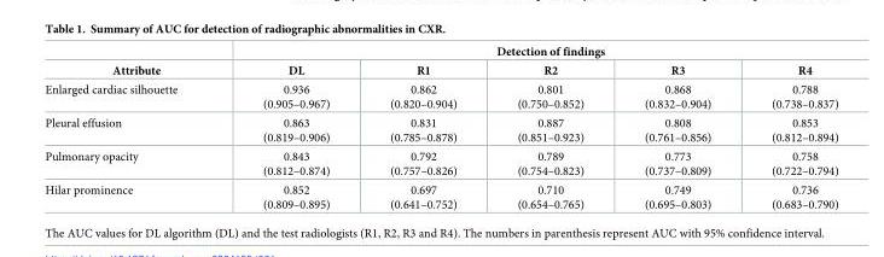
<table><thead><tr><td rowspan="2">Attribute</td><td colspan="5">Detection of findings</td></tr><tr><td>DL</td><td>R1</td><td>R2</td><td>R3</td><td>R4</td></tr></thead><tbody><tr><td>Enlarged cardiac silhouette</td><td>0.936 (0.905–0.967)</td><td>0.862 (0.820–0.904)</td><td>0.801 (0.750–0.852)</td><td>0.868 (0.832–0.904)</td><td>0.788 (0.738–0.837)</td></tr><tr><td>Pleural effusion</td><td>0.863 (0.819–0.906)</td><td>0.831 (0.785–0.878)</td><td>0.887 (0.851–0.923)</td><td>0.808 (0.761–0.856)</td><td>0.853 (0.812–0.894)</td></tr><tr><td>Pulmonary opacity</td><td>0.843 (0.812–0.874)</td><td>0.792 (0.757–0.826)</td><td>0.789 (0.754–0.823)</td><td>0.773 (0.737–0.809)</td><td>0.758 (0.722–0.794)</td></tr><tr><td>Hilar prominence</td><td>0.852 (0.809–0.895)</td><td>0.697 (0.641–0.752)</td><td>0.710 (0.654–0.765)</td><td>0.749 (0.695–0.803)</td><td>0.736 (0.683–0.790)</td></tr></tbody></table>